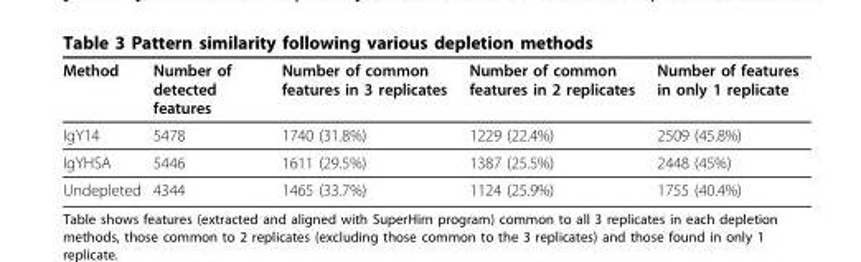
<table><thead><tr><td>Method</td><td>Number of detected features</td><td>Number of common features in 3 replicates</td><td>Number of common features in 2 replicates</td><td>Number of features in only 1 replicate</td></tr></thead><tbody><tr><td>IgY14</td><td>5478</td><td>1740 (31.8%)</td><td>1229 (22.4%)</td><td>2509 (45.8%)</td></tr><tr><td>IgYHSA</td><td>5446</td><td>1611 (29.5%)</td><td>1387 (25.5%)</td><td>2448 (45%)</td></tr><tr><td>Undepleted</td><td>4344</td><td>1465 (33.7%)</td><td>1124 (25.9%)</td><td>1755 (40.4%)</td></tr></tbody></table>